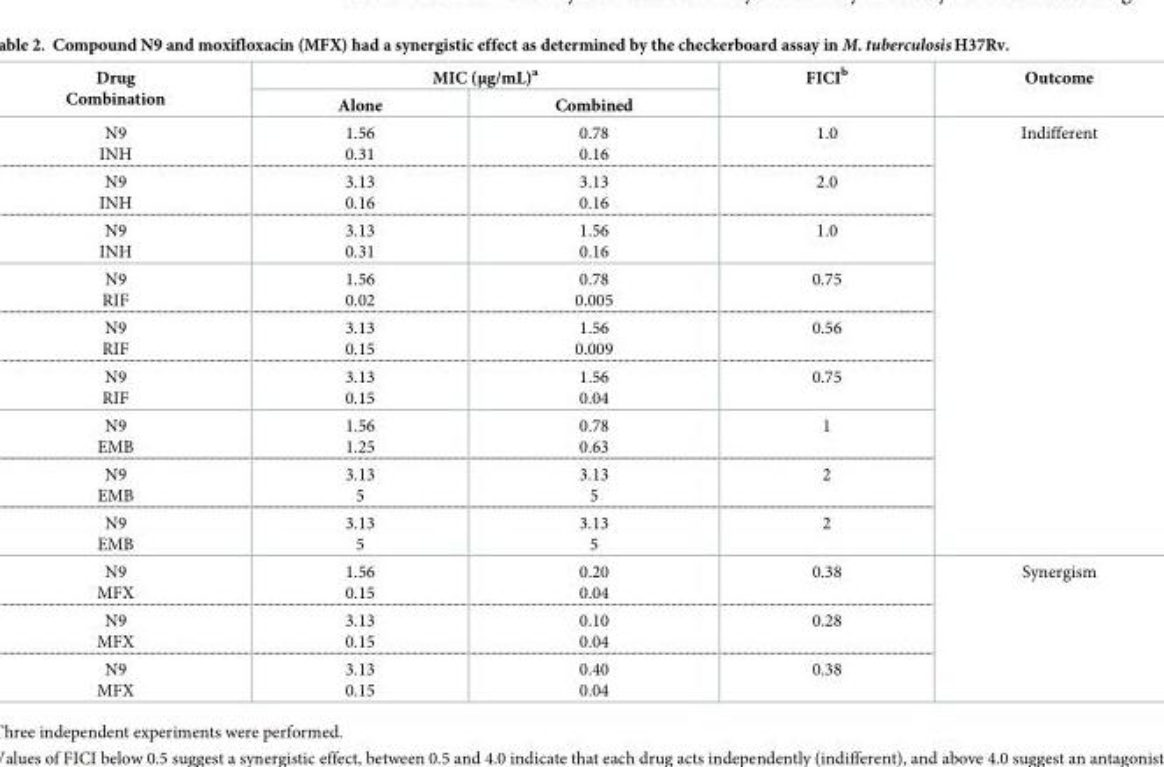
<table><thead><tr><td rowspan="2">Drug Combination</td><td colspan="2">MIC (μg/mL)<sup>a</sup></td><td rowspan="2">FICI<sup>b</sup></td><td rowspan="2">Outcome</td></tr><tr><td>Alone</td><td>Combined</td></tr></thead><tbody><tr><td>N9 INH</td><td>1.56 0.31</td><td>0.78 0.16</td><td>1.0</td><td rowspan="9">Indifferent</td></tr><tr><td>N9 INH</td><td>3.13 0.16</td><td>3.13 0.16</td><td>2.0</td></tr><tr><td>N9 INH</td><td>3.13 0.31</td><td>1.56 0.16</td><td>1.0</td></tr><tr><td>N9 RIF</td><td>1.56 0.02</td><td>0.78 0.005</td><td>0.75</td></tr><tr><td>N9 RIF</td><td>3.13 0.15</td><td>1.56 0.009</td><td>0.56</td></tr><tr><td>N9 RIF</td><td>3.13 0.15</td><td>1.56 0.04</td><td>0.75</td></tr><tr><td>N9 EMB</td><td>1.56 1.25</td><td>0.78 0.63</td><td>1</td></tr><tr><td>N9 EMB</td><td>3.13 5</td><td>3.13 5</td><td>2</td></tr><tr><td>N9 EMB</td><td>3.13 5</td><td>3.13 5</td><td>2</td></tr><tr><td>N9 MFX</td><td>1.56 0.15</td><td>0.20 0.04</td><td>0.38</td><td rowspan="3">Synergism</td></tr><tr><td>N9 MFX</td><td>3.13 0.15</td><td>0.10 0.04</td><td>0.28</td></tr><tr><td>N9 MFX</td><td>3.13 0.15</td><td>0.40 0.04</td><td>0.38</td></tr></tbody></table>